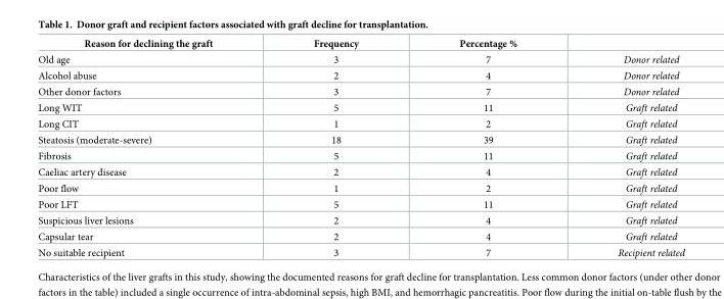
<table><thead><tr><td>Reason for declining the graft</td><td>Frequency</td><td>Percentage %</td><td></td></tr></thead><tbody><tr><td>Old age</td><td>3</td><td>7</td><td>Donor related</td></tr><tr><td>Alcohol abuse</td><td>2</td><td>4</td><td>Donor related</td></tr><tr><td>Other donor factors</td><td>3</td><td>7</td><td>Donor related</td></tr><tr><td>Long WIT</td><td>5</td><td>11</td><td>Graft related</td></tr><tr><td>Long CIT</td><td>1</td><td>2</td><td>Graft related</td></tr><tr><td>Steatosis (moderate-severe)</td><td>18</td><td>39</td><td>Graft related</td></tr><tr><td>Fibrosis</td><td>5</td><td>11</td><td>Graft related</td></tr><tr><td>Caeliac artery disease</td><td>2</td><td>4</td><td>Graft related</td></tr><tr><td>Poor flow</td><td>1</td><td>2</td><td>Graft related</td></tr><tr><td>Poor LFT</td><td>5</td><td>11</td><td>Graft related</td></tr><tr><td>Suspicious liver lesions</td><td>2</td><td>4</td><td>Graft related</td></tr><tr><td>Capsular tear</td><td>2</td><td>4</td><td>Graft related</td></tr><tr><td>No suitable recipient</td><td>3</td><td>7</td><td>Recipient related</td></tr></tbody></table>